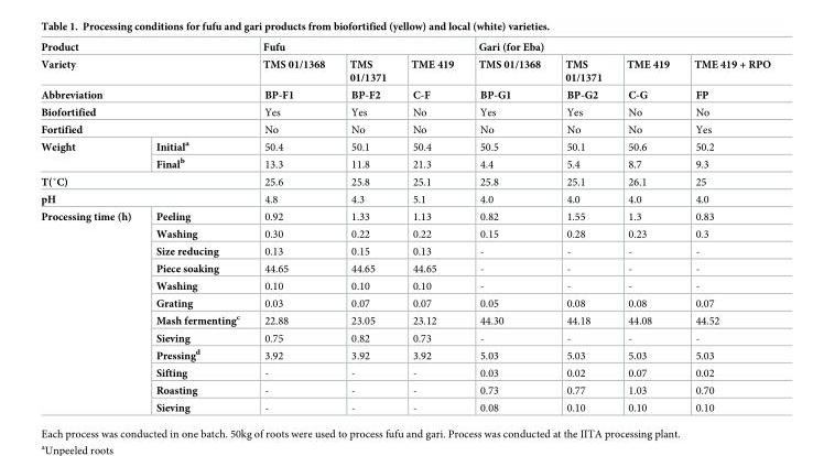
<table><thead><tr><td rowspan="2" colspan="2">Product Variety</td><td colspan="3">Fufu</td><td colspan="4">Gari (for Eba)</td></tr><tr><td>TMS 01/1368</td><td>TMS 01/1371</td><td>TME 419</td><td>TMS 01/1368</td><td>TMS 01/1371</td><td>TME 419</td><td>TME 419 + RPO</td></tr></thead><tbody><tr><td colspan="2">Abbreviation</td><td>BP-F1</td><td>BP-F2</td><td>C-F</td><td>BP-G1</td><td>BP-G2</td><td>C-G</td><td>FP</td></tr><tr><td colspan="2">Biofortified</td><td>Yes</td><td>Yes</td><td>No</td><td>Yes</td><td>Yes</td><td>No</td><td>No</td></tr><tr><td colspan="2">Fortified</td><td>No</td><td>No</td><td>No</td><td>No</td><td>No</td><td>No</td><td>Yes</td></tr><tr><td rowspan="2">Weight</td><td>Initial<sup>a</sup></td><td>50.4</td><td>50.1</td><td>50.4</td><td>50.5</td><td>50.1</td><td>50.6</td><td>50.2</td></tr><tr><td>Final<sup>b</sup></td><td>13.3</td><td>11.8</td><td>21.3</td><td>4.4</td><td>5.4</td><td>8.7</td><td>9.3</td></tr><tr><td colspan="2">T(˚C)</td><td>25.6</td><td>25.8</td><td>25.1</td><td>25.8</td><td>25.1</td><td>26.1</td><td>25</td></tr><tr><td colspan="2">pH</td><td>4.8</td><td>4.3</td><td>5.1</td><td>4.0</td><td>4.0</td><td>4.0</td><td>4.0</td></tr><tr><td rowspan="12">Processing time (h)</td><td>Peeling</td><td>0.92</td><td>1.33</td><td>1.13</td><td>0.82</td><td>1.55</td><td>1.3</td><td>0.83</td></tr><tr><td>Washing</td><td>0.30</td><td>0.22</td><td>0.22</td><td>0.15</td><td>0.28</td><td>0.23</td><td>0.3</td></tr><tr><td>Size reducing</td><td>0.13</td><td>0.15</td><td>0.13</td><td>-</td><td>-</td><td>-</td><td>-</td></tr><tr><td>Piece soaking</td><td>44.65</td><td>44.65</td><td>44.65</td><td>-</td><td>-</td><td>-</td><td>-</td></tr><tr><td>Washing</td><td>0.10</td><td>0.10</td><td>0.10</td><td>-</td><td>-</td><td>-</td><td>-</td></tr><tr><td>Grating</td><td>0.03</td><td>0.07</td><td>0.07</td><td>0.05</td><td>0.08</td><td>0.08</td><td>0.07</td></tr><tr><td>Mash fermenting<sup>c</sup></td><td>22.88</td><td>23.05</td><td>23.12</td><td>44.30</td><td>44.18</td><td>44.08</td><td>44.52</td></tr><tr><td>Sieving</td><td>0.75</td><td>0.82</td><td>0.73</td><td>-</td><td>-</td><td>-</td><td>-</td></tr><tr><td>Pressing<sup>d</sup></td><td>3.92</td><td>3.92</td><td>3.92</td><td>5.03</td><td>5.03</td><td>5.03</td><td>5.03</td></tr><tr><td>Sifting</td><td>-</td><td>-</td><td>-</td><td>0.03</td><td>0.02</td><td>0.07</td><td>0.02</td></tr><tr><td>Roasting</td><td>-</td><td>-</td><td>-</td><td>0.73</td><td>0.77</td><td>1.03</td><td>0.70</td></tr><tr><td>Sieving</td><td>-</td><td>-</td><td>-</td><td>0.08</td><td>0.10</td><td>0.10</td><td>0.10</td></tr></tbody></table>